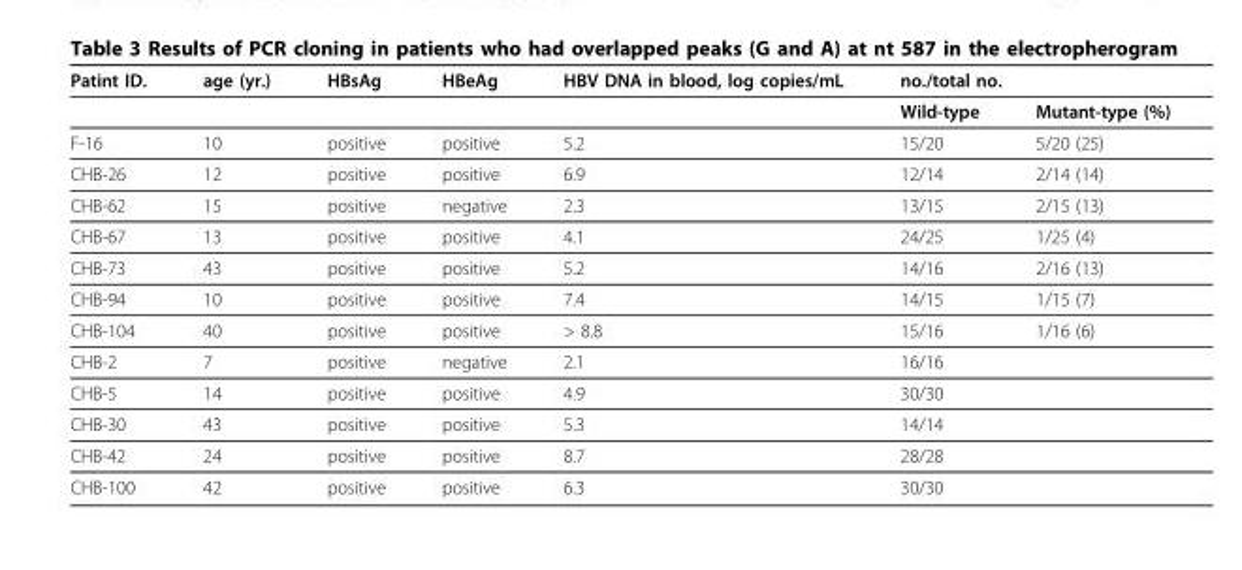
<table><thead><tr><td rowspan="2">Patint ID.</td><td rowspan="2">age (yr.)</td><td rowspan="2">HBsAg</td><td rowspan="2">HBeAg</td><td rowspan="2">HBV DNA in blood, log copies/mL</td><td colspan="2">no./total no.</td></tr><tr><td>Wild-type</td><td>Mutant-type (%)</td></tr></thead><tbody><tr><td>F-16</td><td>10</td><td>positive</td><td>positive</td><td>5.2</td><td>15/20</td><td>5/20 (25)</td></tr><tr><td>CHB-26</td><td>12</td><td>positive</td><td>positive</td><td>6.9</td><td>12/14</td><td>2/14 (14)</td></tr><tr><td>CHB-62</td><td>15</td><td>positive</td><td>negative</td><td>2.3</td><td>13/15</td><td>2/15 (13)</td></tr><tr><td>CHB-67</td><td>13</td><td>positive</td><td>positive</td><td>4.1</td><td>24/25</td><td>1/25 (4)</td></tr><tr><td>CHB-73</td><td>43</td><td>positive</td><td>positive</td><td>5.2</td><td>14/16</td><td>2/16 (13)</td></tr><tr><td>CHB-94</td><td>10</td><td>positive</td><td>positive</td><td>7.4</td><td>14/15</td><td>1/15 (7)</td></tr><tr><td>CHB-104</td><td>40</td><td>positive</td><td>positive</td><td>&gt; 8.8</td><td>15/16</td><td>1/16 (6)</td></tr><tr><td>CHB-2</td><td>7</td><td>positive</td><td>negative</td><td>2.1</td><td>16/16</td><td></td></tr><tr><td>CHB-5</td><td>14</td><td>positive</td><td>positive</td><td>4.9</td><td>30/30</td><td></td></tr><tr><td>CHB-30</td><td>43</td><td>positive</td><td>positive</td><td>5.3</td><td>14/14</td><td></td></tr><tr><td>CHB-42</td><td>24</td><td>positive</td><td>positive</td><td>8.7</td><td>28/28</td><td></td></tr><tr><td>CHB-100</td><td>42</td><td>positive</td><td>positive</td><td>6.3</td><td>30/30</td><td></td></tr></tbody></table>